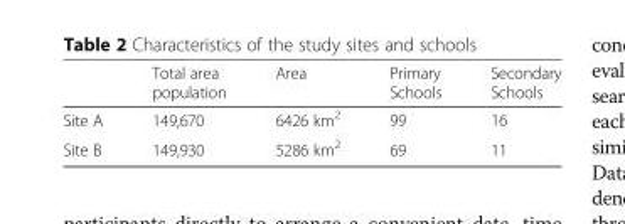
<table><thead><tr><td></td><td>Total area population</td><td>Area</td><td>Primary Schools</td><td>Secondary Schools</td></tr></thead><tbody><tr><td>Site A</td><td>149,670</td><td>6426 km<sup>2</sup></td><td>99</td><td>16</td></tr><tr><td>Site B</td><td>149,930</td><td>5286 km<sup>2</sup></td><td>69</td><td>11</td></tr></tbody></table>